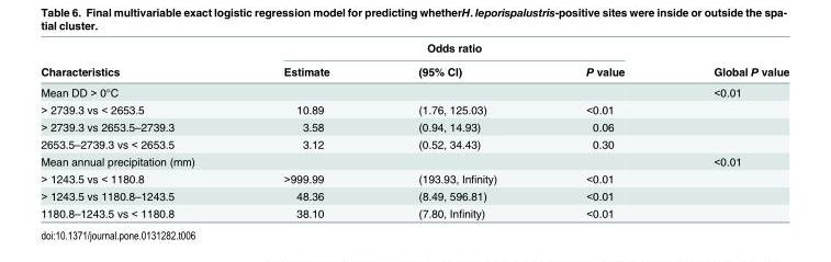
<table><thead><tr><td rowspan="2">Characteristics</td><td colspan="3">Odds ratio</td><td rowspan="2">Global P value</td></tr><tr><td>Estimate</td><td>(95% CI)</td><td>P value</td></tr></thead><tbody><tr><td>Mean DD &gt; 0°C</td><td></td><td></td><td></td><td>&lt;0.01</td></tr><tr><td>&gt; 2739.3 vs &lt; 2653.5</td><td>10.89</td><td>(1.76, 125.03)</td><td>&lt;0.01</td><td></td></tr><tr><td>&gt; 2739.3 vs 2653.5–2739.3</td><td>3.58</td><td>(0.94, 14.93)</td><td>0.06</td><td></td></tr><tr><td>2653.5–2739.3 vs &lt; 2653.5</td><td>3.12</td><td>(0.52, 34.43)</td><td>0.30</td><td></td></tr><tr><td>Mean annual precipitation (mm)</td><td></td><td></td><td></td><td>&lt;0.01</td></tr><tr><td>&gt; 1243.5 vs &lt; 1180.8</td><td>&gt;999.99</td><td>(193.93, Infinity)</td><td>&lt;0.01</td><td></td></tr><tr><td>&gt; 1243.5 vs 1180.8–1243.5</td><td>48.36</td><td>(8.49, 596.81)</td><td>&lt;0.01</td><td></td></tr><tr><td>1180.8–1243.5 vs &lt; 1180.8</td><td>38.10</td><td>(7.80, Infinity)</td><td>&lt;0.01</td><td></td></tr></tbody></table>